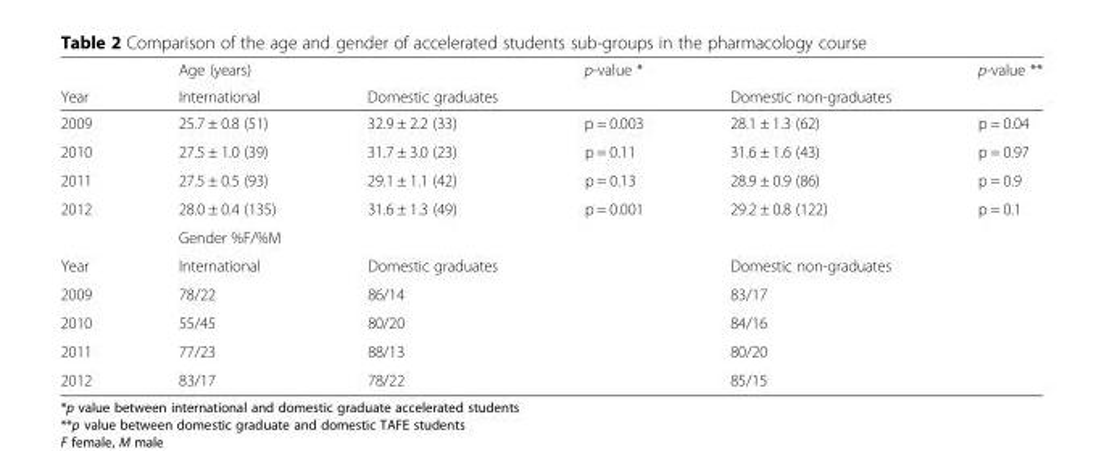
<table><thead><tr><td rowspan="2">Year</td><td rowspan="2">Age (years) International</td><td rowspan="2">Domestic graduates</td><td rowspan="2">p-value *</td><td rowspan="2">Domestic non-graduates</td><td rowspan="2">p-value **</td></tr><tr></tr></thead><tbody><tr><td>2009</td><td>25.7 ± 0.8 (51)</td><td>32.9 ± 2.2 (33)</td><td>p = 0.003</td><td>28.1 ± 1.3 (62)</td><td>p = 0.04</td></tr><tr><td>2010</td><td>27.5 ± 1.0 (39)</td><td>31.7 ± 3.0 (23)</td><td>p = 0.11</td><td>31.6 ± 1.6 (43)</td><td>p = 0.97</td></tr><tr><td>2011</td><td>27.5 ± 0.5 (93)</td><td>29.1 ± 1.1 (42)</td><td>p = 0.13</td><td>28.9 ± 0.9 (86)</td><td>p = 0.9</td></tr><tr><td rowspan="2">2012</td><td>28.0 ± 0.4 (135)</td><td>31.6 ± 1.3 (49)</td><td>p = 0.001</td><td>29.2 ± 0.8 (122)</td><td>p = 0.1</td></tr><tr><td>Gender %F/%M</td><td></td><td></td><td></td><td></td></tr><tr><td>Year</td><td>International</td><td>Domestic graduates</td><td></td><td>Domestic non-graduates</td><td></td></tr><tr><td>2009</td><td>78/22</td><td>86/14</td><td></td><td>83/17</td><td></td></tr><tr><td>2010</td><td>55/45</td><td>80/20</td><td></td><td>84/16</td><td></td></tr><tr><td>2011</td><td>77/23</td><td>88/13</td><td></td><td>80/20</td><td></td></tr><tr><td>2012</td><td>83/17</td><td>78/22</td><td></td><td>85/15</td><td></td></tr></tbody></table>